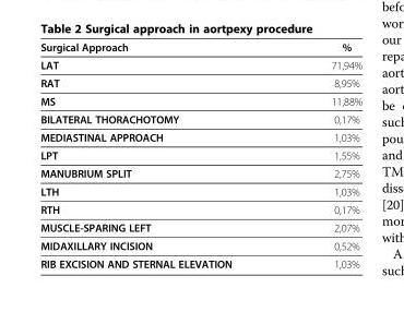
<table><thead><tr><td>Surgical Approach</td><td>%</td></tr></thead><tbody><tr><td>LAT</td><td>71,94%</td></tr><tr><td>RAT</td><td>8,95%</td></tr><tr><td>MS</td><td>11,88%</td></tr><tr><td>BILATERAL THORACHOTOMY</td><td>0,17%</td></tr><tr><td>MEDIASTINAL APPROACH</td><td>1,03%</td></tr><tr><td>LPT</td><td>1,55%</td></tr><tr><td>MANUBRIUM SPLIT</td><td>2,75%</td></tr><tr><td>LTH</td><td>1,03%</td></tr><tr><td>RTH</td><td>0,17%</td></tr><tr><td>MUSCLE-SPARING LEFT</td><td>2,07%</td></tr><tr><td>MIDAXILLARY INCISION</td><td>0,52%</td></tr><tr><td>RIB EXCISION AND STERNAL ELEVATION</td><td>1,03%</td></tr></tbody></table>